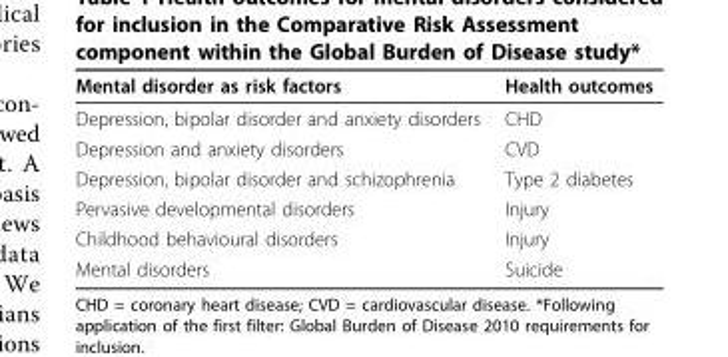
<table><thead><tr><td>Mental disorder as risk factors</td><td>Health outcomes</td></tr></thead><tbody><tr><td>Depression, bipolar disorder and anxiety disorders</td><td>CHD</td></tr><tr><td>Depression and anxiety disorders</td><td>CVD</td></tr><tr><td>Depression, bipolar disorder and schizophrenia</td><td>Type 2 diabetes</td></tr><tr><td>Pervasive developmental disorders</td><td>Injury</td></tr><tr><td>Childhood behavioural disorders</td><td>Injury</td></tr><tr><td>Mental disorders</td><td>Suicide</td></tr></tbody></table>